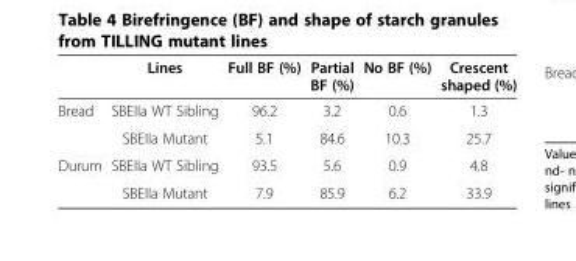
<table><thead><tr><td></td><td>Lines</td><td>Full BF (%)</td><td>Partial BF (%)</td><td>No BF (%)</td><td>Crescent shaped (%)</td></tr></thead><tbody><tr><td rowspan="2">Bread</td><td>SBEIIa WT Sibling</td><td>96.2</td><td>3.2</td><td>0.6</td><td>1.3</td></tr><tr><td>SBEIIa Mutant</td><td>5.1</td><td>84.6</td><td>10.3</td><td>25.7</td></tr><tr><td rowspan="2">Durum</td><td>SBEIIa WT Sibling</td><td>93.5</td><td>5.6</td><td>0.9</td><td>4.8</td></tr><tr><td>SBEIIa Mutant</td><td>7.9</td><td>85.9</td><td>6.2</td><td>33.9</td></tr></tbody></table>